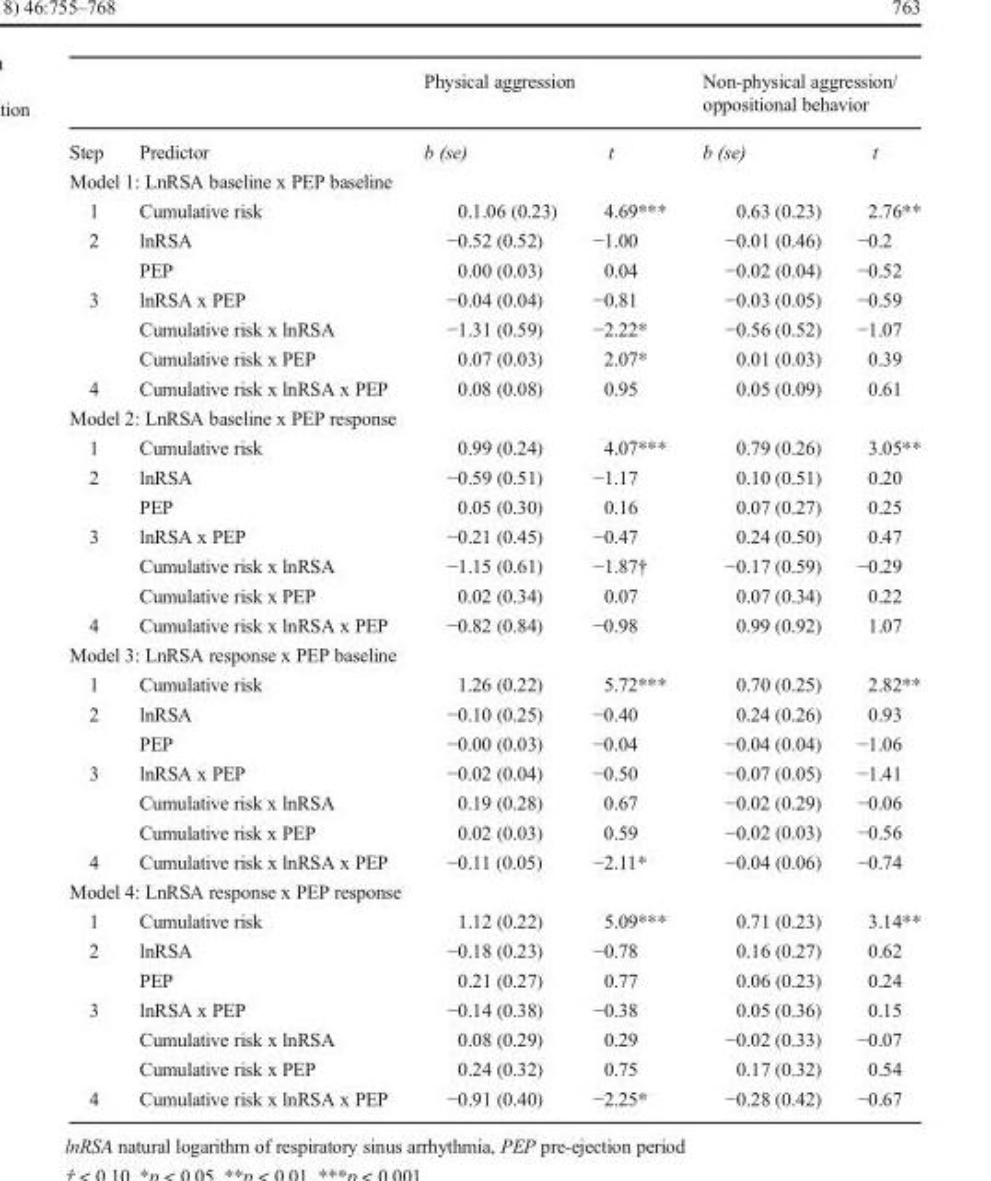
<table><thead><tr><td rowspan="2">Step</td><td rowspan="2">Predictor</td><td colspan="2">Physical aggression</td><td colspan="2">Non-physical aggression/ oppositional behavior</td></tr><tr><td>b (se)</td><td>t</td><td>b (se)</td><td>t</td></tr></thead><tbody><tr><td colspan="6">Model 1: LnRSA baseline x PEP baseline</td></tr><tr><td>1</td><td>Cumulative risk</td><td>0.1.06 (0.23)</td><td>4.69***</td><td>0.63 (0.23)</td><td>2.76**</td></tr><tr><td rowspan="2">2</td><td>lnRSA</td><td>−0.52 (0.52)</td><td>−1.00</td><td>−0.01 (0.46)</td><td>−0.2</td></tr><tr><td>PEP</td><td>0.00 (0.03)</td><td>0.04</td><td>−0.02 (0.04)</td><td>−0.52</td></tr><tr><td rowspan="3">3</td><td>lnRSA x PEP</td><td>−0.04 (0.04)</td><td>−0.81</td><td>−0.03 (0.05)</td><td>−0.59</td></tr><tr><td>Cumulative risk x lnRSA</td><td>−1.31 (0.59)</td><td>−2.22*</td><td>−0.56 (0.52)</td><td>−1.07</td></tr><tr><td>Cumulative risk x PEP</td><td>0.07 (0.03)</td><td>2.07*</td><td>0.01 (0.03)</td><td>0.39</td></tr><tr><td>4</td><td>Cumulative risk x lnRSA x PEP</td><td>0.08 (0.08)</td><td>0.95</td><td>0.05 (0.09)</td><td>0.61</td></tr><tr><td colspan="6">Model 2: LnRSA baseline x PEP response</td></tr><tr><td>1</td><td>Cumulative risk</td><td>0.99 (0.24)</td><td>4.07***</td><td>0.79 (0.26)</td><td>3.05**</td></tr><tr><td rowspan="2">2</td><td>lnRSA</td><td>−0.59 (0.51)</td><td>−1.17</td><td>0.10 (0.51)</td><td>0.20</td></tr><tr><td>PEP</td><td>0.05 (0.30)</td><td>0.16</td><td>0.07 (0.27)</td><td>0.25</td></tr><tr><td rowspan="3">3</td><td>lnRSA x PEP</td><td>−0.21 (0.45)</td><td>−0.47</td><td>0.24 (0.50)</td><td>0.47</td></tr><tr><td>Cumulative risk x lnRSA</td><td>−1.15 (0.61)</td><td>−1.87†</td><td>−0.17 (0.59)</td><td>−0.29</td></tr><tr><td>Cumulative risk x PEP</td><td>0.02 (0.34)</td><td>0.07</td><td>0.07 (0.34)</td><td>0.22</td></tr><tr><td>4</td><td>Cumulative risk x lnRSA x PEP</td><td>−0.82 (0.84)</td><td>−0.98</td><td>0.99 (0.92)</td><td>1.07</td></tr><tr><td colspan="6">Model 3: LnRSA response x PEP baseline</td></tr><tr><td>1</td><td>Cumulative risk</td><td>1.26 (0.22)</td><td>5.72***</td><td>0.70 (0.25)</td><td>2.82**</td></tr><tr><td rowspan="2">2</td><td>lnRSA</td><td>−0.10 (0.25)</td><td>−0.40</td><td>0.24 (0.26)</td><td>0.93</td></tr><tr><td>PEP</td><td>−0.00 (0.03)</td><td>−0.04</td><td>−0.04 (0.04)</td><td>−1.06</td></tr><tr><td rowspan="3">3</td><td>lnRSA x PEP</td><td>−0.02 (0.04)</td><td>−0.50</td><td>−0.07 (0.05)</td><td>−1.41</td></tr><tr><td>Cumulative risk x lnRSA</td><td>0.19 (0.28)</td><td>0.67</td><td>−0.02 (0.29)</td><td>−0.06</td></tr><tr><td>Cumulative risk x PEP</td><td>0.02 (0.03)</td><td>0.59</td><td>−0.02 (0.03)</td><td>−0.56</td></tr><tr><td>4</td><td>Cumulative risk x lnRSA x PEP</td><td>−0.11 (0.05)</td><td>−2.11*</td><td>−0.04 (0.06)</td><td>−0.74</td></tr><tr><td colspan="6">Model 4: LnRSA response x PEP response</td></tr><tr><td>1</td><td>Cumulative risk</td><td>1.12 (0.22)</td><td>5.09***</td><td>0.71 (0.23)</td><td>3.14**</td></tr><tr><td rowspan="2">2</td><td>lnRSA</td><td>−0.18 (0.23)</td><td>−0.78</td><td>0.16 (0.27)</td><td>0.62</td></tr><tr><td>PEP</td><td>0.21 (0.27)</td><td>0.77</td><td>0.06 (0.23)</td><td>0.24</td></tr><tr><td rowspan="3">3</td><td>lnRSA x PEP</td><td>−0.14 (0.38)</td><td>−0.38</td><td>0.05 (0.36)</td><td>0.15</td></tr><tr><td>Cumulative risk x lnRSA</td><td>0.08 (0.29)</td><td>0.29</td><td>−0.02 (0.33)</td><td>−0.07</td></tr><tr><td>Cumulative risk x PEP</td><td>0.24 (0.32)</td><td>0.75</td><td>0.17 (0.32)</td><td>0.54</td></tr><tr><td>4</td><td>Cumulative risk x lnRSA x PEP</td><td>−0.91 (0.40)</td><td>−2.25*</td><td>−0.28 (0.42)</td><td>−0.67</td></tr></tbody></table>